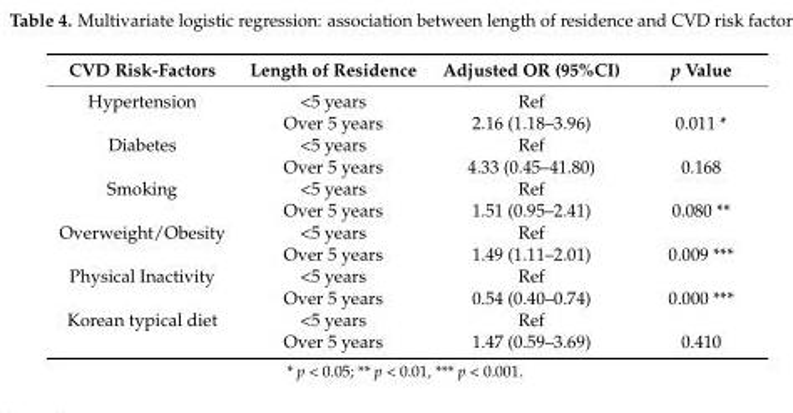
<table><thead><tr><td>CVD Risk-Factors</td><td>Length of Residence</td><td>Adjusted OR (95%CI)</td><td>p Value</td></tr></thead><tbody><tr><td rowspan="2">Hypertension</td><td>&lt;5 years</td><td>Ref</td><td></td></tr><tr><td>Over 5 years</td><td>2.16 (1.18–3.96)</td><td>0.011 *</td></tr><tr><td rowspan="2">Diabetes</td><td>&lt;5 years</td><td>Ref</td><td></td></tr><tr><td>Over 5 years</td><td>4.33 (0.45–41.80)</td><td>0.168</td></tr><tr><td rowspan="2">Smoking</td><td>&lt;5 years</td><td>Ref</td><td></td></tr><tr><td>Over 5 years</td><td>1.51 (0.95–2.41)</td><td>0.080 **</td></tr><tr><td rowspan="2">Overweight/Obesity</td><td>&lt;5 years</td><td>Ref</td><td></td></tr><tr><td>Over 5 years</td><td>1.49 (1.11–2.01)</td><td>0.009 ***</td></tr><tr><td rowspan="2">Physical Inactivity</td><td>&lt;5 years</td><td>Ref</td><td></td></tr><tr><td>Over 5 years</td><td>0.54 (0.40–0.74)</td><td>0.000 ***</td></tr><tr><td rowspan="2">Korean typical diet</td><td>&lt;5 years</td><td>Ref</td><td></td></tr><tr><td>Over 5 years</td><td>1.47 (0.59–3.69)</td><td>0.410</td></tr></tbody></table>